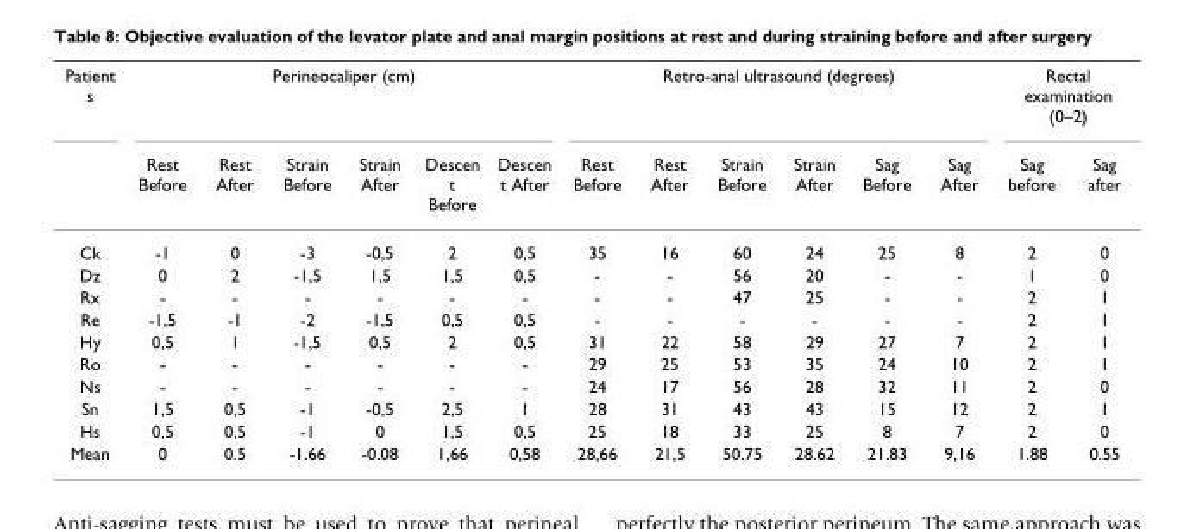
<table><thead><tr><td rowspan="2">Patient s</td><td colspan="6">Perineocaliper (cm)</td><td colspan="6">Retro-anal ultrasound (degrees)</td><td colspan="2">Rectal examination (0–2)</td></tr><tr><td>Rest Before</td><td>Rest After</td><td>Strain Before</td><td>Strain After</td><td>Descen t Before</td><td>Descen t After</td><td>Rest Before</td><td>Rest After</td><td>Strain Before</td><td>Strain After</td><td>Sag Before</td><td>Sag After</td><td>Sag before</td><td>Sag after</td></tr></thead><tbody><tr><td>Ck</td><td>-1</td><td>0</td><td>-3</td><td>-0,5</td><td>2</td><td>0,5</td><td>35</td><td>16</td><td>60</td><td>24</td><td>25</td><td>8</td><td>2</td><td>0</td></tr><tr><td>Dz</td><td>0</td><td>2</td><td>-1,5</td><td>1,5</td><td>1,5</td><td>0,5</td><td>-</td><td>-</td><td>56</td><td>20</td><td>-</td><td>-</td><td>1</td><td>0</td></tr><tr><td>Rx</td><td>-</td><td>-</td><td>-</td><td>-</td><td>-</td><td>-</td><td>-</td><td>-</td><td>47</td><td>25</td><td>-</td><td>-</td><td>2</td><td>1</td></tr><tr><td>Re</td><td>-1,5</td><td>-1</td><td>-2</td><td>-1,5</td><td>0,5</td><td>0,5</td><td>-</td><td>-</td><td>-</td><td>-</td><td>-</td><td>-</td><td>2</td><td>1</td></tr><tr><td>Hy</td><td>0,5</td><td>1</td><td>-1,5</td><td>0,5</td><td>2</td><td>0,5</td><td>31</td><td>22</td><td>58</td><td>29</td><td>27</td><td>7</td><td>2</td><td>1</td></tr><tr><td>Ro</td><td>-</td><td>-</td><td>-</td><td>-</td><td>-</td><td>-</td><td>29</td><td>25</td><td>53</td><td>35</td><td>24</td><td>10</td><td>2</td><td>1</td></tr><tr><td>Ns</td><td>-</td><td>-</td><td>-</td><td>-</td><td>-</td><td>-</td><td>24</td><td>17</td><td>56</td><td>28</td><td>32</td><td>11</td><td>2</td><td>0</td></tr><tr><td>Sn</td><td>1,5</td><td>0,5</td><td>-1</td><td>-0,5</td><td>2,5</td><td>1</td><td>28</td><td>31</td><td>43</td><td>43</td><td>15</td><td>12</td><td>2</td><td>1</td></tr><tr><td>Hs</td><td>0,5</td><td>0,5</td><td>-1</td><td>0</td><td>1,5</td><td>0,5</td><td>25</td><td>18</td><td>33</td><td>25</td><td>8</td><td>7</td><td>2</td><td>0</td></tr><tr><td>Mean</td><td>0</td><td>0.5</td><td>-1.66</td><td>-0.08</td><td>1,66</td><td>0,58</td><td>28,66</td><td>21,5</td><td>50.75</td><td>28.62</td><td>21.83</td><td>9,16</td><td>1.88</td><td>0.55</td></tr></tbody></table>